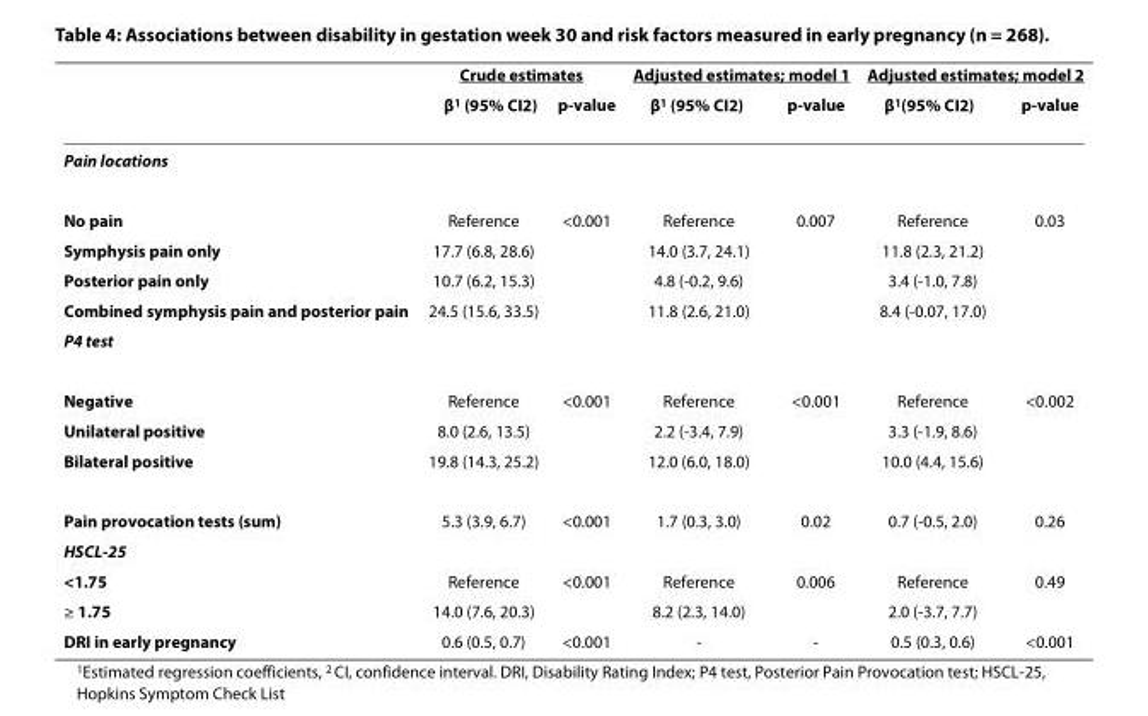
<table><thead><tr><td rowspan="2"></td><td colspan="2">Crude estimates</td><td colspan="2">Adjusted estimates; model 1</td><td colspan="2">Adjusted estimates; model 2</td></tr><tr><td>β<sup>1</sup> (95% CI<sup>2</sup>)</td><td>p-value</td><td>β<sup>1</sup> (95% CI<sup>2</sup>)</td><td>p-value</td><td>β<sup>1</sup>(95% CI<sup>2</sup>)</td><td>p-value</td></tr></thead><tbody><tr><td colspan="7">Pain locations</td></tr><tr><td>No pain</td><td>Reference</td><td>&lt;0.001</td><td>Reference</td><td>0.007</td><td>Reference</td><td>0.03</td></tr><tr><td>Symphysis pain only</td><td>17.7 (6.8, 28.6)</td><td></td><td>14.0 (3.7, 24.1)</td><td></td><td>11.8 (2.3, 21.2)</td><td></td></tr><tr><td>Posterior pain only</td><td>10.7 (6.2, 15.3)</td><td></td><td>4.8 (-0.2, 9.6)</td><td></td><td>3.4 (-1.0, 7.8)</td><td></td></tr><tr><td>Combined symphysis pain and posterior pain</td><td>24.5 (15.6, 33.5)</td><td></td><td>11.8 (2.6, 21.0)</td><td></td><td>8.4 (-0.07, 17.0)</td><td></td></tr><tr><td colspan="7">P4 test</td></tr><tr><td>Negative</td><td>Reference</td><td>&lt;0.001</td><td>Reference</td><td>&lt;0.001</td><td>Reference</td><td>&lt;0.002</td></tr><tr><td>Unilateral positive</td><td>8.0 (2.6, 13.5)</td><td></td><td>2.2 (-3.4, 7.9)</td><td></td><td>3.3 (-1.9, 8.6)</td><td></td></tr><tr><td>Bilateral positive</td><td>19.8 (14.3, 25.2)</td><td></td><td>12.0 (6.0, 18.0)</td><td></td><td>10.0 (4.4, 15.6)</td><td></td></tr><tr><td>Pain provocation tests (sum)</td><td>5.3 (3.9, 6.7)</td><td>&lt;0.001</td><td>1.7 (0.3, 3.0)</td><td>0.02</td><td>0.7 (-0.5, 2.0)</td><td>0.26</td></tr><tr><td colspan="7">HSCL-25</td></tr><tr><td>&lt;1.75</td><td>Reference</td><td>&lt;0.001</td><td>Reference</td><td>0.006</td><td>Reference</td><td>0.49</td></tr><tr><td>≥ 1.75</td><td>14.0 (7.6, 20.3)</td><td></td><td>8.2 (2.3, 14.0)</td><td></td><td>2.0 (-3.7, 7.7)</td><td></td></tr><tr><td>DRI in early pregnancy</td><td>0.6 (0.5, 0.7)</td><td>&lt;0.001</td><td>-</td><td>-</td><td>0.5 (0.3, 0.6)</td><td>&lt;0.001</td></tr></tbody></table>